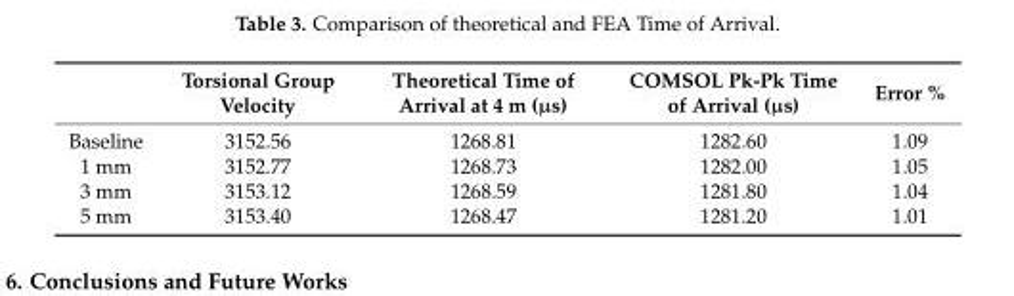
<table><thead><tr><td></td><td>Torsional Group Velocity</td><td>Theoretical Time of Arrival at 4 m (µs)</td><td>COMSOL Pk-Pk Time of Arrival (µs)</td><td>Error %</td></tr></thead><tbody><tr><td>Baseline</td><td>3152.56</td><td>1268.81</td><td>1282.60</td><td>1.09</td></tr><tr><td>1 mm</td><td>3152.77</td><td>1268.73</td><td>1282.00</td><td>1.05</td></tr><tr><td>3 mm</td><td>3153.12</td><td>1268.59</td><td>1281.80</td><td>1.04</td></tr><tr><td>5 mm</td><td>3153.40</td><td>1268.47</td><td>1281.20</td><td>1.01</td></tr></tbody></table>